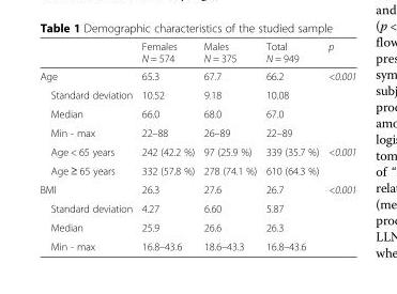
<table><thead><tr><td></td><td>Females N = 574</td><td>Males N = 375</td><td>Total N = 949</td><td>p</td></tr></thead><tbody><tr><td>Age</td><td>65.3</td><td>67.7</td><td>66.2</td><td rowspan="4">&lt;0.001</td></tr><tr><td>Standard deviation</td><td>10.52</td><td>9.18</td><td>10.08</td></tr><tr><td>Median</td><td>66.0</td><td>68.0</td><td>67.0</td></tr><tr><td>Min - max</td><td>22–88</td><td>26–89</td><td>22–89</td></tr><tr><td>Age &lt; 65 years</td><td>242 (42.2 %)</td><td>97 (25.9 %)</td><td>339 (35.7 %)</td><td rowspan="2">&lt;0.001</td></tr><tr><td>Age ≥ 65 years</td><td>332 (57.8 %)</td><td>278 (74.1 %)</td><td>610 (64.3 %)</td></tr><tr><td>BMI</td><td>26.3</td><td>27.6</td><td>26.7</td><td rowspan="4">&lt;0.001</td></tr><tr><td>Standard deviation</td><td>4.27</td><td>6.60</td><td>5.87</td></tr><tr><td>Median</td><td>25.9</td><td>26.6</td><td>26.3</td></tr><tr><td>Min - max</td><td>16.8–43.6</td><td>18.6–43.3</td><td>16.8–43.6</td></tr></tbody></table>